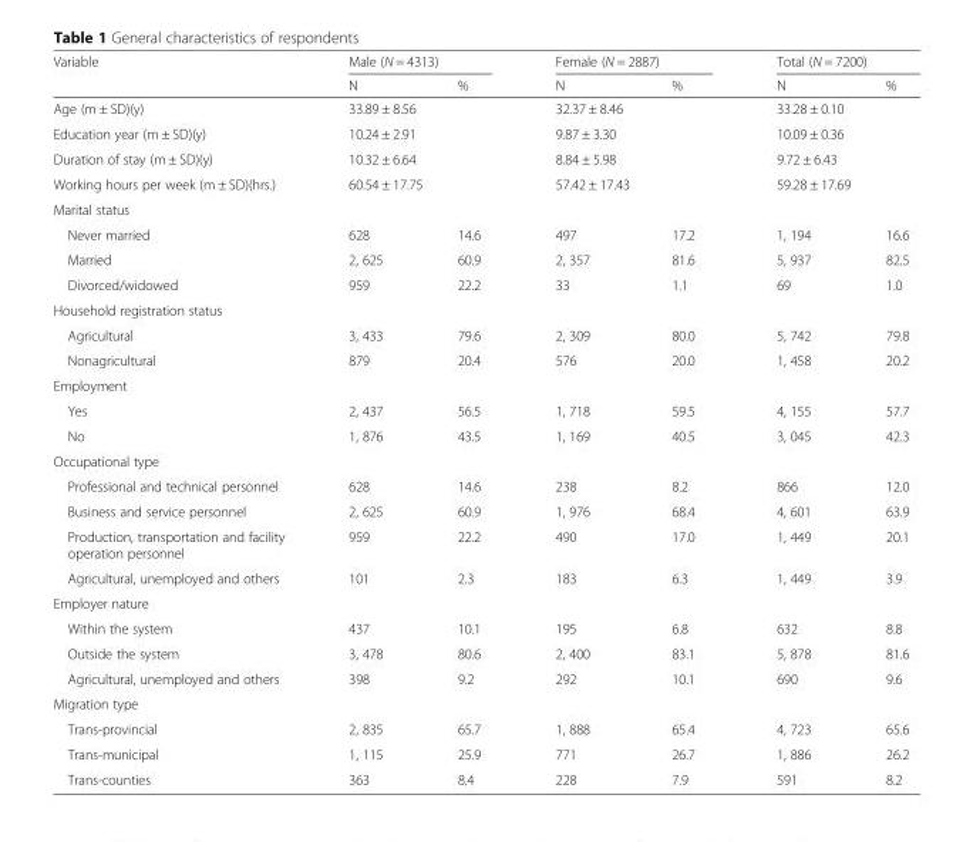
<table><thead><tr><td rowspan="2">Variable</td><td colspan="2">Male (N = 4313)</td><td colspan="2">Female (N = 2887)</td><td colspan="2">Total (N = 7200)</td></tr><tr><td>N</td><td>%</td><td>N</td><td>%</td><td>N</td><td>%</td></tr></thead><tbody><tr><td>Age (m ± SD)(y)</td><td colspan="2">33.89 ± 8.56</td><td colspan="2">32.37 ± 8.46</td><td colspan="2">33.28 ± 0.10</td></tr><tr><td>Education year (m ± SD)(y)</td><td colspan="2">10.24 ± 2.91</td><td colspan="2">9.87 ± 3.30</td><td colspan="2">10.09 ± 0.36</td></tr><tr><td>Duration of stay (m ± SD)(y)</td><td colspan="2">10.32 ± 6.64</td><td colspan="2">8.84 ± 5.98</td><td colspan="2">9.72 ± 6.43</td></tr><tr><td>Working hours per week (m ± SD)(hrs.)</td><td colspan="2">60.54 ± 17.75</td><td colspan="2">57.42 ± 17.43</td><td colspan="2">59.28 ± 17.69</td></tr><tr><td colspan="7">Marital status</td></tr><tr><td>Never married</td><td>628</td><td>14.6</td><td>497</td><td>17.2</td><td>1, 194</td><td>16.6</td></tr><tr><td>Married</td><td>2, 625</td><td>60.9</td><td>2, 357</td><td>81.6</td><td>5, 937</td><td>82.5</td></tr><tr><td>Divorced/widowed</td><td>959</td><td>22.2</td><td>33</td><td>1.1</td><td>69</td><td>1.0</td></tr><tr><td colspan="7">Household registration status</td></tr><tr><td>Agricultural</td><td>3, 433</td><td>79.6</td><td>2, 309</td><td>80.0</td><td>5, 742</td><td>79.8</td></tr><tr><td>Nonagricultural</td><td>879</td><td>20.4</td><td>576</td><td>20.0</td><td>1, 458</td><td>20.2</td></tr><tr><td colspan="7">Employment</td></tr><tr><td>Yes</td><td>2, 437</td><td>56.5</td><td>1, 718</td><td>59.5</td><td>4, 155</td><td>57.7</td></tr><tr><td>No</td><td>1, 876</td><td>43.5</td><td>1, 169</td><td>40.5</td><td>3, 045</td><td>42.3</td></tr><tr><td colspan="7">Occupational type</td></tr><tr><td>Professional and technical personnel</td><td>628</td><td>14.6</td><td>238</td><td>8.2</td><td>866</td><td>12.0</td></tr><tr><td>Business and service personnel</td><td>2, 625</td><td>60.9</td><td>1, 976</td><td>68.4</td><td>4, 601</td><td>63.9</td></tr><tr><td>Production, transportation and facility operation personnel</td><td>959</td><td>22.2</td><td>490</td><td>17.0</td><td>1, 449</td><td>20.1</td></tr><tr><td>Agricultural, unemployed and others</td><td>101</td><td>2.3</td><td>183</td><td>6.3</td><td>1, 449</td><td>3.9</td></tr><tr><td colspan="7">Employer nature</td></tr><tr><td>Within the system</td><td>437</td><td>10.1</td><td>195</td><td>6.8</td><td>632</td><td>8.8</td></tr><tr><td>Outside the system</td><td>3, 478</td><td>80.6</td><td>2, 400</td><td>83.1</td><td>5, 878</td><td>81.6</td></tr><tr><td>Agricultural, unemployed and others</td><td>398</td><td>9.2</td><td>292</td><td>10.1</td><td>690</td><td>9.6</td></tr><tr><td colspan="7">Migration type</td></tr><tr><td>Trans-provincial</td><td>2, 835</td><td>65.7</td><td>1, 888</td><td>65.4</td><td>4, 723</td><td>65.6</td></tr><tr><td>Trans-municipal</td><td>1, 115</td><td>25.9</td><td>771</td><td>26.7</td><td>1, 886</td><td>26.2</td></tr><tr><td>Trans-counties</td><td>363</td><td>8.4</td><td>228</td><td>7.9</td><td>591</td><td>8.2</td></tr></tbody></table>